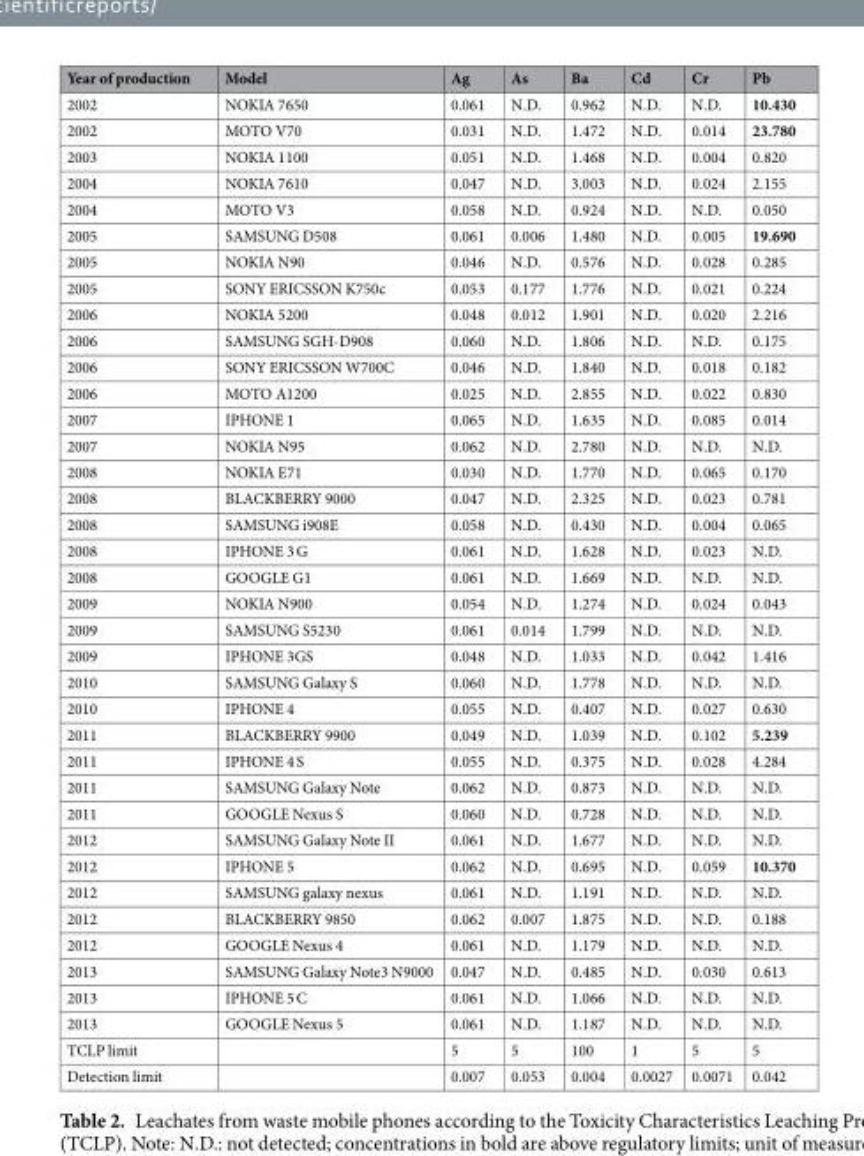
<table><thead><tr><td>Year of production</td><td>Model</td><td>Ag</td><td>As</td><td>Ba</td><td>Cd</td><td>Cr</td><td>Pb</td></tr></thead><tbody><tr><td>2002</td><td>NOKIA 7650</td><td>0.061</td><td>N.D.</td><td>0.962</td><td>N.D.</td><td>N.D.</td><td>10.430</td></tr><tr><td>2002</td><td>MOTO V70</td><td>0.031</td><td>N.D.</td><td>1.472</td><td>N.D.</td><td>0.014</td><td>23.780</td></tr><tr><td>2003</td><td>NOKIA 1100</td><td>0.051</td><td>N.D.</td><td>1.468</td><td>N.D.</td><td>0.004</td><td>0.820</td></tr><tr><td>2004</td><td>NOKIA 7610</td><td>0.047</td><td>N.D.</td><td>3.003</td><td>N.D.</td><td>0.024</td><td>2.155</td></tr><tr><td>2004</td><td>MOTO V3</td><td>0.058</td><td>N.D.</td><td>0.924</td><td>N.D.</td><td>N.D.</td><td>0.050</td></tr><tr><td>2005</td><td>SAMSUNG D508</td><td>0.061</td><td>0.006</td><td>1.480</td><td>N.D.</td><td>0.005</td><td>19.690</td></tr><tr><td>2005</td><td>NOKIA N90</td><td>0.046</td><td>N.D.</td><td>0.576</td><td>N.D.</td><td>0.028</td><td>0.285</td></tr><tr><td>2005</td><td>SONY ERICSSON K750c</td><td>0.053</td><td>0.177</td><td>1.776</td><td>N.D.</td><td>0.021</td><td>0.224</td></tr><tr><td>2006</td><td>NOKIA 5200</td><td>0.048</td><td>0.012</td><td>1.901</td><td>N.D.</td><td>0.020</td><td>2.216</td></tr><tr><td>2006</td><td>SAMSUNG SGH-D908</td><td>0.060</td><td>N.D.</td><td>1.806</td><td>N.D.</td><td>N.D.</td><td>0.175</td></tr><tr><td>2006</td><td>SONY ERICSSON W700C</td><td>0.046</td><td>N.D.</td><td>1.840</td><td>N.D.</td><td>0.018</td><td>0.182</td></tr><tr><td>2006</td><td>MOTO A1200</td><td>0.025</td><td>N.D.</td><td>2.855</td><td>N.D.</td><td>0.022</td><td>0.830</td></tr><tr><td>2007</td><td>IPHONE 1</td><td>0.065</td><td>N.D.</td><td>1.635</td><td>N.D.</td><td>0.085</td><td>0.014</td></tr><tr><td>2007</td><td>NOKIA N95</td><td>0.062</td><td>N.D.</td><td>2.780</td><td>N.D.</td><td>N.D.</td><td>N.D.</td></tr><tr><td>2008</td><td>NOKIA E71</td><td>0.030</td><td>N.D.</td><td>1.770</td><td>N.D.</td><td>0.065</td><td>0.170</td></tr><tr><td>2008</td><td>BLACKBERRY 9000</td><td>0.047</td><td>N.D.</td><td>2.325</td><td>N.D.</td><td>0.023</td><td>0.781</td></tr><tr><td>2008</td><td>SAMSUNG i908E</td><td>0.058</td><td>N.D.</td><td>0.430</td><td>N.D.</td><td>0.004</td><td>0.065</td></tr><tr><td>2008</td><td>IPHONE 3 G</td><td>0.061</td><td>N.D.</td><td>1.628</td><td>N.D.</td><td>0.023</td><td>N.D.</td></tr><tr><td>2008</td><td>GOOGLE G1</td><td>0.061</td><td>N.D.</td><td>1.669</td><td>N.D.</td><td>N.D.</td><td>N.D.</td></tr><tr><td>2009</td><td>NOKIA N900</td><td>0.054</td><td>N.D.</td><td>1.274</td><td>N.D.</td><td>0.024</td><td>0.043</td></tr><tr><td>2009</td><td>SAMSUNG S5230</td><td>0.061</td><td>0.014</td><td>1.799</td><td>N.D.</td><td>N.D.</td><td>N.D.</td></tr><tr><td>2009</td><td>IPHONE 3GS</td><td>0.048</td><td>N.D.</td><td>1.033</td><td>N.D.</td><td>0.042</td><td>1.416</td></tr><tr><td>2010</td><td>SAMSUNG Galaxy S</td><td>0.060</td><td>N.D.</td><td>1.778</td><td>N.D.</td><td>N.D.</td><td>N.D.</td></tr><tr><td>2010</td><td>IPHONE 4</td><td>0.055</td><td>N.D.</td><td>0.407</td><td>N.D.</td><td>0.027</td><td>0.630</td></tr><tr><td>2011</td><td>BLACKBERRY 9900</td><td>0.049</td><td>N.D.</td><td>1.039</td><td>N.D.</td><td>0.102</td><td>5.239</td></tr><tr><td>2011</td><td>IPHONE 4 S</td><td>0.055</td><td>N.D.</td><td>0.375</td><td>N.D.</td><td>0.028</td><td>4.284</td></tr><tr><td>2011</td><td>SAMSUNG Galaxy Note</td><td>0.062</td><td>N.D.</td><td>0.873</td><td>N.D.</td><td>N.D.</td><td>N.D.</td></tr><tr><td>2011</td><td>GOOGLE Nexus S</td><td>0.060</td><td>N.D.</td><td>0.728</td><td>N.D.</td><td>N.D.</td><td>N.D.</td></tr><tr><td>2012</td><td>SAMSUNG Galaxy Note II</td><td>0.061</td><td>N.D.</td><td>1.677</td><td>N.D.</td><td>N.D.</td><td>N.D.</td></tr><tr><td>2012</td><td>IPHONE 5</td><td>0.062</td><td>N.D.</td><td>0.695</td><td>N.D.</td><td>0.059</td><td>10.370</td></tr><tr><td>2012</td><td>SAMSUNG galaxy nexus</td><td>0.061</td><td>N.D.</td><td>1.191</td><td>N.D.</td><td>N.D.</td><td>N.D.</td></tr><tr><td>2012</td><td>BLACKBERRY 9850</td><td>0.062</td><td>0.007</td><td>1.875</td><td>N.D.</td><td>N.D.</td><td>0.188</td></tr><tr><td>2012</td><td>GOOGLE Nexus 4</td><td>0.061</td><td>N.D.</td><td>1.179</td><td>N.D.</td><td>N.D.</td><td>N.D.</td></tr><tr><td>2013</td><td>SAMSUNG Galaxy Note3 N9000</td><td>0.047</td><td>N.D.</td><td>0.485</td><td>N.D.</td><td>0.030</td><td>0.613</td></tr><tr><td>2013</td><td>IPHONE 5 C</td><td>0.061</td><td>N.D.</td><td>1.066</td><td>N.D.</td><td>N.D.</td><td>N.D.</td></tr><tr><td>2013</td><td>GOOGLE Nexus 5</td><td>0.061</td><td>N.D.</td><td>1.187</td><td>N.D.</td><td>N.D.</td><td>N.D.</td></tr><tr><td>TCLP limit</td><td></td><td>5</td><td>5</td><td>100</td><td>1</td><td>5</td><td>5</td></tr><tr><td>Detection limit</td><td></td><td>0.007</td><td>0.053</td><td>0.004</td><td>0.0027</td><td>0.0071</td><td>0.042</td></tr></tbody></table>